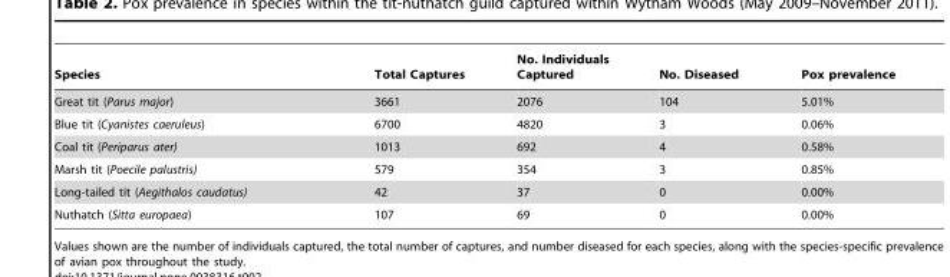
<table><thead><tr><td>Species</td><td>Total Captures</td><td>No. Individuals Captured</td><td>No. Diseased</td><td>Pox prevalence</td></tr></thead><tbody><tr><td>Great tit (Parus major)</td><td>3661</td><td>2076</td><td>104</td><td>5.01%</td></tr><tr><td>Blue tit (Cyanistes caeruleus)</td><td>6700</td><td>4820</td><td>3</td><td>0.06%</td></tr><tr><td>Coal tit (Periparus ater)</td><td>1013</td><td>692</td><td>4</td><td>0.58%</td></tr><tr><td>Marsh tit (Poecile palustris)</td><td>579</td><td>354</td><td>3</td><td>0.85%</td></tr><tr><td>Long-tailed tit (Aegithalos caudatus)</td><td>42</td><td>37</td><td>0</td><td>0.00%</td></tr><tr><td>Nuthatch (Sitta europaea)</td><td>107</td><td>69</td><td>0</td><td>0.00%</td></tr></tbody></table>